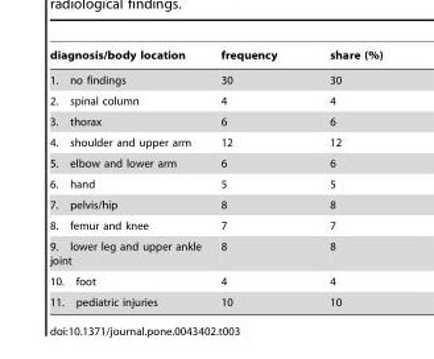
<table><thead><tr><td>diagnosis/body location</td><td>frequency</td><td>share (%)</td></tr></thead><tbody><tr><td>1. no findings</td><td>30</td><td>30</td></tr><tr><td>2. spinal column</td><td>4</td><td>4</td></tr><tr><td>3. thorax</td><td>6</td><td>6</td></tr><tr><td>4. shoulder and upper arm</td><td>12</td><td>12</td></tr><tr><td>5. elbow and lower arm</td><td>6</td><td>6</td></tr><tr><td>6. hand</td><td>5</td><td>5</td></tr><tr><td>7. pelvis/hip</td><td>8</td><td>8</td></tr><tr><td>8. femur and knee</td><td>7</td><td>7</td></tr><tr><td>9. lower leg and upper ankle joint</td><td>8</td><td>8</td></tr><tr><td>10. foot</td><td>4</td><td>4</td></tr><tr><td>11. pediatric injuries</td><td>10</td><td>10</td></tr></tbody></table>